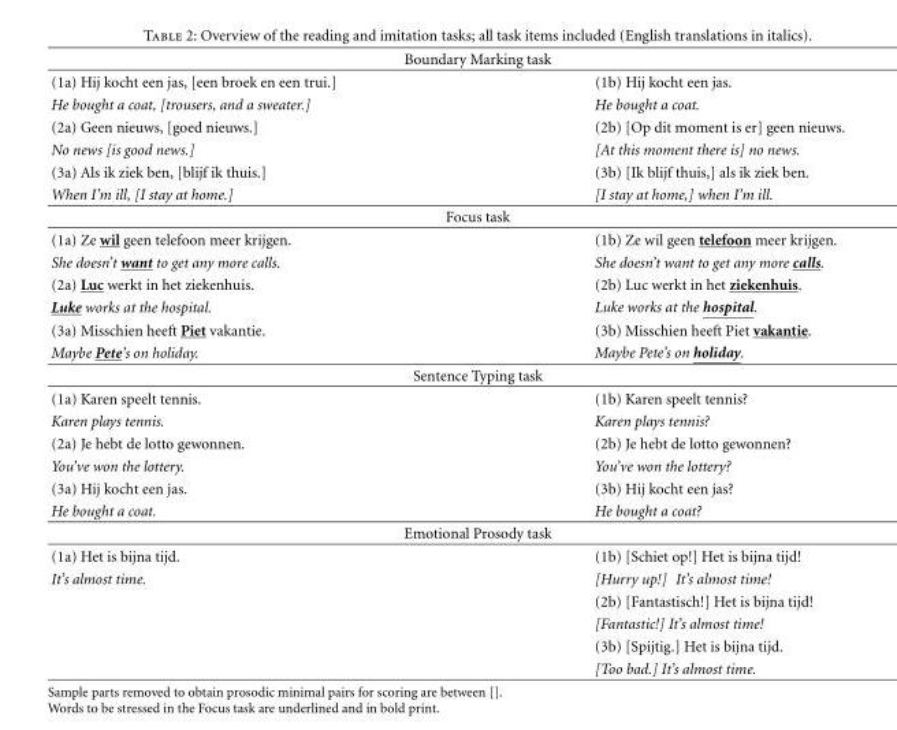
<table><thead><tr><td colspan="2">Boundary Marking task</td></tr><tr><td>(1a) Hij kocht een jas, [een broek en een trui.]</td><td>(1b) Hij kocht een jas.</td></tr></thead><tbody><tr><td>He bought a coat, [trousers, and a sweater.]</td><td>He bought a coat.</td></tr><tr><td>(2a) Geen nieuws, [goed nieuws.]</td><td>(2b) [Op dit moment is er] geen nieuws.</td></tr><tr><td>No news [is good news.]</td><td>[At this moment there is] no news.</td></tr><tr><td>(3a) Als ik ziek ben, [blijf ik thuis.]</td><td>(3b) [Ik blijf thuis,] als ik ziek ben.</td></tr><tr><td>When I’m ill, [I stay at home.]</td><td>[I stay at home,] when I’m ill.</td></tr><tr><td colspan="2">Focus task</td></tr><tr><td>(1a) Ze wil geen telefoon meer krijgen.</td><td>(1b) Ze wil geen telefoon meer krijgen.</td></tr><tr><td>She doesn’t want to get any more calls.</td><td>She doesn’t want to get any more calls.</td></tr><tr><td>(2a) Luc werkt in het ziekenhuis.</td><td>(2b) Luc werkt in het ziekenhuis.</td></tr><tr><td>Luke works at the hospital.</td><td>Luke works at the hospital.</td></tr><tr><td>(3a) Misschien heeft Piet vakantie.</td><td>(3b) Misschien heeft Piet vakantie.</td></tr><tr><td>Maybe Pete’s on holiday.</td><td>Maybe Pete’s on holiday.</td></tr><tr><td colspan="2">Sentence Typing task</td></tr><tr><td>(1a) Karen speelt tennis.</td><td>(1b) Karen speelt tennis?</td></tr><tr><td>Karen plays tennis.</td><td>Karen plays tennis?</td></tr><tr><td>(2a) Je hebt de lotto gewonnen.</td><td>(2b) Je hebt de lotto gewonnen?</td></tr><tr><td>You’ve won the lottery.</td><td>You’ve won the lottery?</td></tr><tr><td>(3a) Hij kocht een jas.</td><td>(3b) Hij kocht een jas?</td></tr><tr><td>He bought a coat.</td><td>He bought a coat?</td></tr><tr><td colspan="2">Emotional Prosody task</td></tr><tr><td>(1a) Het is bijna tijd.</td><td>(1b) [Schiet op!] Het is bijna tijd!</td></tr><tr><td rowspan="5">It’s almost time.</td><td>[Hurry up!] It’s almost time!</td></tr><tr><td>(2b) [Fantastisch!] Het is bijna tijd!</td></tr><tr><td>[Fantastic!] It’s almost time!</td></tr><tr><td>(3b) [Spijtig.] Het is bijna tijd.</td></tr><tr><td>[Too bad.] It’s almost time.</td></tr></tbody></table>